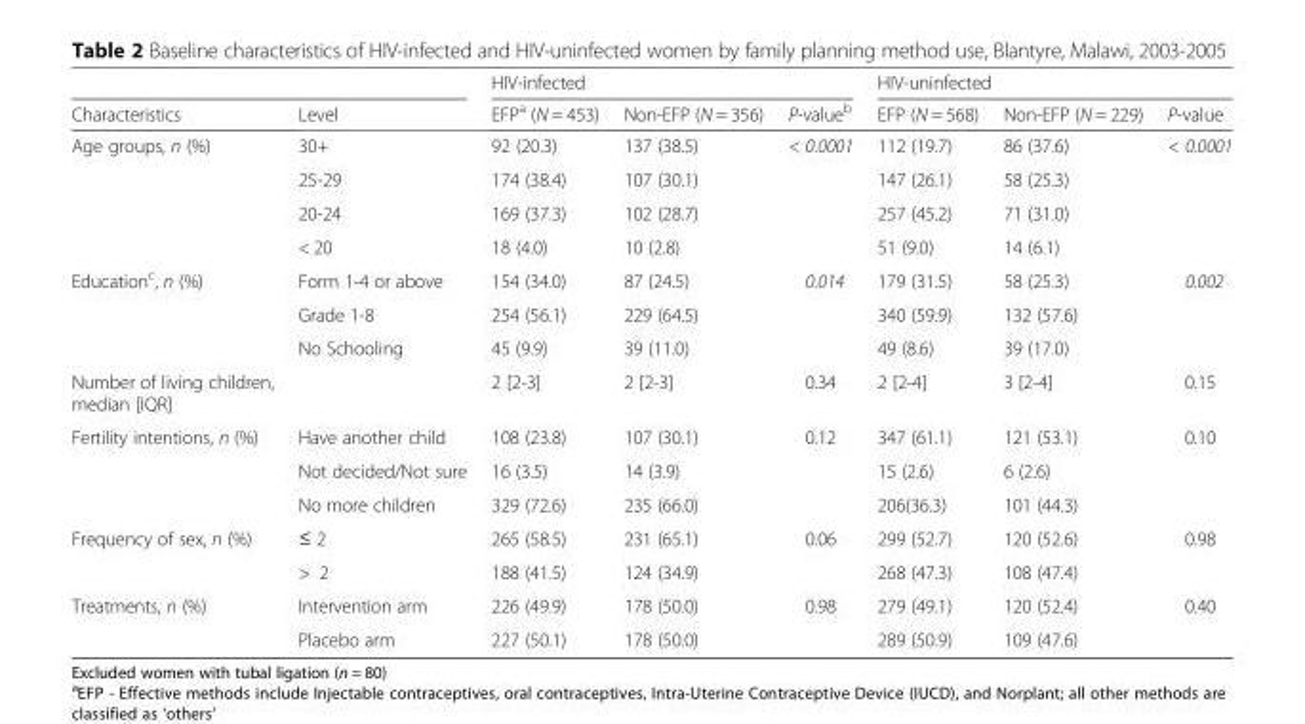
<table><thead><tr><td rowspan="2">Characteristics</td><td rowspan="2">Level</td><td colspan="3">HIV-infected</td><td colspan="3">HIV-uninfected</td></tr><tr><td>EFP<sup>a</sup> (N = 453)</td><td>Non-EFP (N = 356)</td><td>P-value<sup>b</sup></td><td>EFP (N = 568)</td><td>Non-EFP (N = 229)</td><td>P-value</td></tr></thead><tbody><tr><td rowspan="4">Age groups, n (%)</td><td>30+</td><td>92 (20.3)</td><td>137 (38.5)</td><td>&lt; 0.0001</td><td>112 (19.7)</td><td>86 (37.6)</td><td>&lt; 0.0001</td></tr><tr><td>25-29</td><td>174 (38.4)</td><td>107 (30.1)</td><td></td><td>147 (26.1)</td><td>58 (25.3)</td><td></td></tr><tr><td>20-24</td><td>169 (37.3)</td><td>102 (28.7)</td><td></td><td>257 (45.2)</td><td>71 (31.0)</td><td></td></tr><tr><td>&lt; 20</td><td>18 (4.0)</td><td>10 (2.8)</td><td></td><td>51 (9.0)</td><td>14 (6.1)</td><td></td></tr><tr><td rowspan="3">Education<sup>c</sup>, n (%)</td><td>Form 1-4 or above</td><td>154 (34.0)</td><td>87 (24.5)</td><td>0.014</td><td>179 (31.5)</td><td>58 (25.3)</td><td>0.002</td></tr><tr><td>Grade 1-8</td><td>254 (56.1)</td><td>229 (64.5)</td><td></td><td>340 (59.9)</td><td>132 (57.6)</td><td></td></tr><tr><td>No Schooling</td><td>45 (9.9)</td><td>39 (11.0)</td><td></td><td>49 (8.6)</td><td>39 (17.0)</td><td></td></tr><tr><td>Number of living children, median [IQR]</td><td></td><td>2 [2-3]</td><td>2 [2-3]</td><td>0.34</td><td>2 [2-4]</td><td>3 [2-4]</td><td>0.15</td></tr><tr><td rowspan="3">Fertility intentions, n (%)</td><td>Have another child</td><td>108 (23.8)</td><td>107 (30.1)</td><td>0.12</td><td>347 (61.1)</td><td>121 (53.1)</td><td>0.10</td></tr><tr><td>Not decided/Not sure</td><td>16 (3.5)</td><td>14 (3.9)</td><td></td><td>15 (2.6)</td><td>6 (2.6)</td><td></td></tr><tr><td>No more children</td><td>329 (72.6)</td><td>235 (66.0)</td><td></td><td>206(36.3)</td><td>101 (44.3)</td><td></td></tr><tr><td rowspan="2">Frequency of sex, n (%)</td><td>≤ 2</td><td>265 (58.5)</td><td>231 (65.1)</td><td>0.06</td><td>299 (52.7)</td><td>120 (52.6)</td><td>0.98</td></tr><tr><td>&gt; 2</td><td>188 (41.5)</td><td>124 (34.9)</td><td></td><td>268 (47.3)</td><td>108 (47.4)</td><td></td></tr><tr><td rowspan="2">Treatments, n (%)</td><td>Intervention arm</td><td>226 (49.9)</td><td>178 (50.0)</td><td>0.98</td><td>279 (49.1)</td><td>120 (52.4)</td><td>0.40</td></tr><tr><td>Placebo arm</td><td>227 (50.1)</td><td>178 (50.0)</td><td></td><td>289 (50.9)</td><td>109 (47.6)</td><td></td></tr></tbody></table>